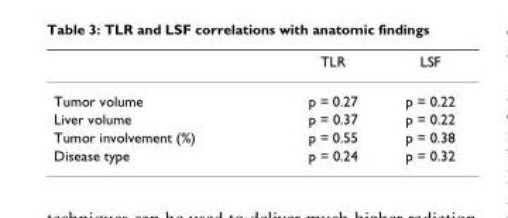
<table><thead><tr><td></td><td>TLR</td><td>LSF</td></tr></thead><tbody><tr><td>Tumor volume</td><td>p = 0.27</td><td>p = 0.22</td></tr><tr><td>Liver volume</td><td>p = 0.37</td><td>p = 0.22</td></tr><tr><td>Tumor involvement (%)</td><td>p = 0.55</td><td>p = 0.38</td></tr><tr><td>Disease type</td><td>p = 0.24</td><td>p = 0.32</td></tr></tbody></table>